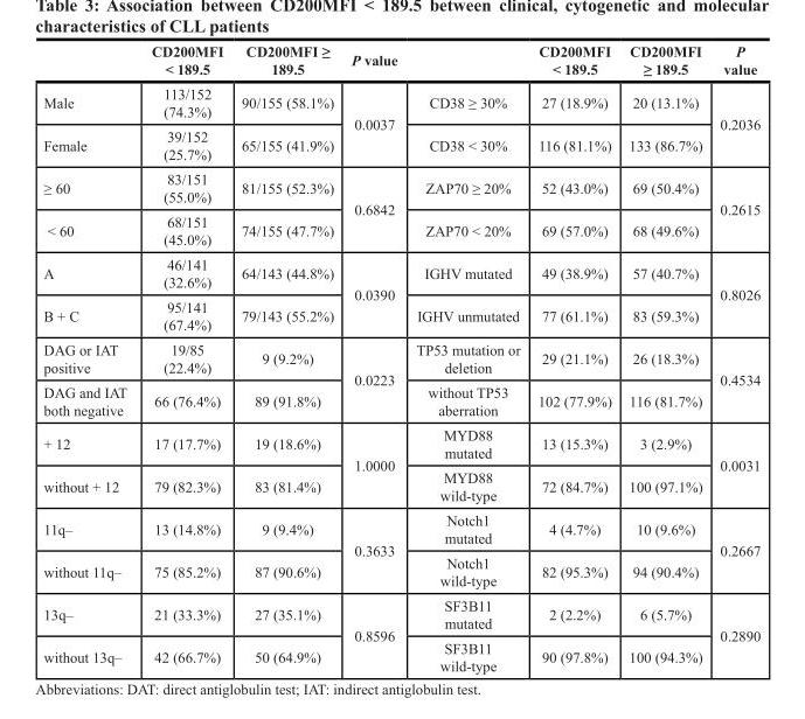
<table><thead><tr><td></td><td>CD200MFI &lt; 189.5</td><td>CD200MFI ≥ 189.5</td><td>P value</td><td></td><td>CD200MFI &lt; 189.5</td><td>CD200MFI ≥ 189.5</td><td>P value</td></tr></thead><tbody><tr><td>Male</td><td>113/152 (74.3%)</td><td>90/155 (58.1%)</td><td rowspan="2">0.0037</td><td>CD38 ≥ 30%</td><td>27 (18.9%)</td><td>20 (13.1%)</td><td rowspan="2">0.2036</td></tr><tr><td>Female</td><td>39/152 (25.7%)</td><td>65/155 (41.9%)</td><td>CD38 &lt; 30%</td><td>116 (81.1%)</td><td>133 (86.7%)</td></tr><tr><td>≥ 60</td><td>83/151 (55.0%)</td><td>81/155 (52.3%)</td><td rowspan="2">0.6842</td><td>ZAP70 ≥ 20%</td><td>52 (43.0%)</td><td>69 (50.4%)</td><td rowspan="2">0.2615</td></tr><tr><td>&lt; 60</td><td>68/151 (45.0%)</td><td>74/155 (47.7%)</td><td>ZAP70 &lt; 20%</td><td>69 (57.0%)</td><td>68 (49.6%)</td></tr><tr><td>A</td><td>46/141 (32.6%)</td><td>64/143 (44.8%)</td><td rowspan="2">0.0390</td><td>IGHV mutated</td><td>49 (38.9%)</td><td>57 (40.7%)</td><td rowspan="2">0.8026</td></tr><tr><td>B + C</td><td>95/141 (67.4%)</td><td>79/143 (55.2%)</td><td>IGHV unmutated</td><td>77 (61.1%)</td><td>83 (59.3%)</td></tr><tr><td>DAG or IAT positive</td><td>19/85 (22.4%)</td><td>9 (9.2%)</td><td rowspan="2">0.0223</td><td>TP53 mutation or deletion</td><td>29 (21.1%)</td><td>26 (18.3%)</td><td rowspan="2">0.4534</td></tr><tr><td>DAG and IAT both negative</td><td>66 (76.4%)</td><td>89 (91.8%)</td><td>without TP53 aberration</td><td>102 (77.9%)</td><td>116 (81.7%)</td></tr><tr><td>+ 12</td><td>17 (17.7%)</td><td>19 (18.6%)</td><td rowspan="2">1.0000</td><td>MYD88 mutated</td><td>13 (15.3%)</td><td>3 (2.9%)</td><td rowspan="2">0.0031</td></tr><tr><td>without + 12</td><td>79 (82.3%)</td><td>83 (81.4%)</td><td>MYD88 wild-type</td><td>72 (84.7%)</td><td>100 (97.1%)</td></tr><tr><td>11q–</td><td>13 (14.8%)</td><td>9 (9.4%)</td><td rowspan="2">0.3633</td><td>Notch1 mutated</td><td>4 (4.7%)</td><td>10 (9.6%)</td><td rowspan="2">0.2667</td></tr><tr><td>without 11q–</td><td>75 (85.2%)</td><td>87 (90.6%)</td><td>Notch1 wild-type</td><td>82 (95.3%)</td><td>94 (90.4%)</td></tr><tr><td>13q–</td><td>21 (33.3%)</td><td>27 (35.1%)</td><td rowspan="2">0.8596</td><td>SF3B11 mutated</td><td>2 (2.2%)</td><td>6 (5.7%)</td><td rowspan="2">0.2890</td></tr><tr><td>without 13q–</td><td>42 (66.7%)</td><td>50 (64.9%)</td><td>SF3B11 wild-type</td><td>90 (97.8%)</td><td>100 (94.3%)</td></tr></tbody></table>